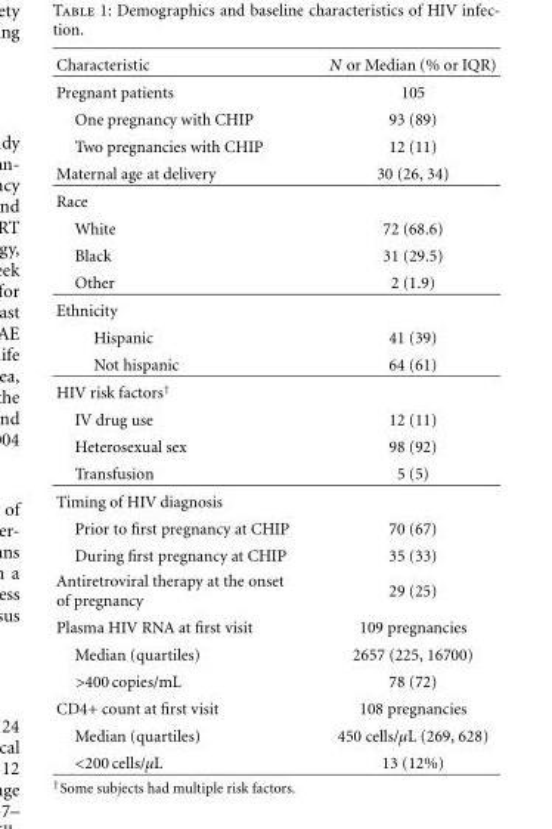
<table><thead><tr><td>Characteristic</td><td>N or Median (% or IQR)</td></tr></thead><tbody><tr><td>Pregnant patients</td><td>105</td></tr><tr><td>One pregnancy with CHIP</td><td>93 (89)</td></tr><tr><td>Two pregnancies with CHIP</td><td>12 (11)</td></tr><tr><td>Maternal age at delivery</td><td>30 (26, 34)</td></tr><tr><td colspan="2">Race</td></tr><tr><td>White</td><td>72 (68.6)</td></tr><tr><td>Black</td><td>31 (29.5)</td></tr><tr><td>Other</td><td>2 (1.9)</td></tr><tr><td colspan="2">Ethnicity</td></tr><tr><td>Hispanic</td><td>41 (39)</td></tr><tr><td>Not hispanic</td><td>64 (61)</td></tr><tr><td colspan="2">HIV risk factors<sup>†</sup></td></tr><tr><td>IV drug use</td><td>12 (11)</td></tr><tr><td>Heterosexual sex</td><td>98 (92)</td></tr><tr><td>Transfusion</td><td>5 (5)</td></tr><tr><td colspan="2">Timing of HIV diagnosis</td></tr><tr><td>Prior to first pregnancy at CHIP</td><td>70 (67)</td></tr><tr><td>During first pregnancy at CHIP</td><td>35 (33)</td></tr><tr><td>Antiretroviral therapy at the onset of pregnancy</td><td>29 (25)</td></tr><tr><td>Plasma HIV RNA at first visit</td><td>109 pregnancies</td></tr><tr><td>Median (quartiles)</td><td>2657 (225, 16700)</td></tr><tr><td>&gt;400 copies/mL</td><td>78 (72)</td></tr><tr><td>CD4+ count at first visit</td><td>108 pregnancies</td></tr><tr><td>Median (quartiles)</td><td>450 cells/µL (269, 628)</td></tr><tr><td>&lt;200 cells/µL</td><td>13 (12%)</td></tr></tbody></table>